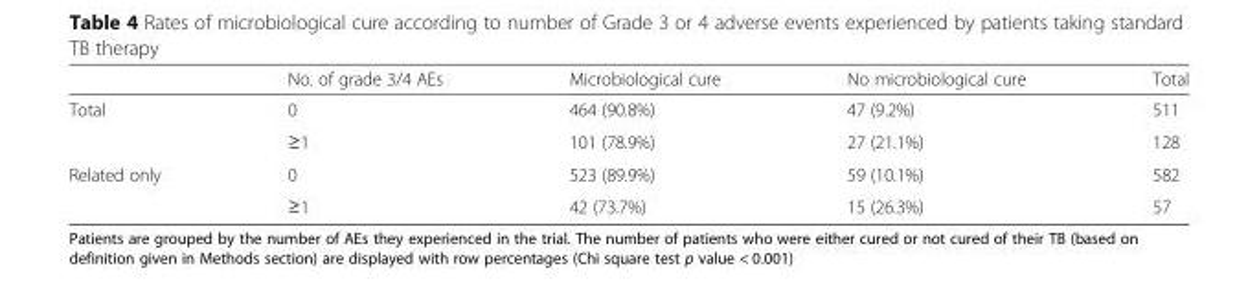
<table><thead><tr><td></td><td>No. of grade 3/4 AEs</td><td>Microbiological cure</td><td>No microbiological cure</td><td>Total</td></tr></thead><tbody><tr><td rowspan="2">Total</td><td>0</td><td>464 (90.8%)</td><td>47 (9.2%)</td><td>511</td></tr><tr><td>≥1</td><td>101 (78.9%)</td><td>27 (21.1%)</td><td>128</td></tr><tr><td rowspan="2">Related only</td><td>0</td><td>523 (89.9%)</td><td>59 (10.1%)</td><td>582</td></tr><tr><td>≥1</td><td>42 (73.7%)</td><td>15 (26.3%)</td><td>57</td></tr></tbody></table>